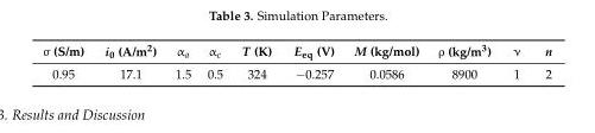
<table><thead><tr><td>σ (S/m)</td><td>i<sub>0</sub> (A/m<sup>2</sup>)</td><td>α<sub>a</sub></td><td>α<sub>c</sub></td><td>T (K)</td><td>E<sub>eq</sub> (V)</td><td>M (kg/mol)</td><td>ρ (kg/m<sup>3</sup>)</td><td>ν</td><td>n</td></tr></thead><tbody><tr><td>0.95</td><td>17.1</td><td>1.5</td><td>0.5</td><td>324</td><td>−0.257</td><td>0.0586</td><td>8900</td><td>1</td><td>2</td></tr></tbody></table>